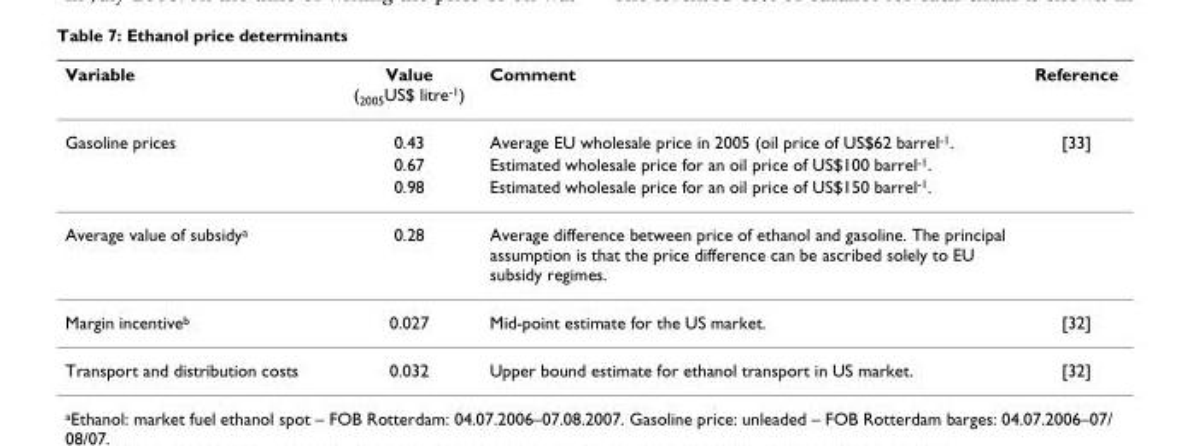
<table><thead><tr><td>Variable</td><td>Value (<sub>2005</sub>US$ litre<sup>-1</sup>)</td><td>Comment</td><td>Reference</td></tr></thead><tbody><tr><td rowspan="3">Gasoline prices</td><td>0.43</td><td>Average EU wholesale price in 2005 (oil price of US$62 barrel<sup>-1</sup>.</td><td>[33]</td></tr><tr><td>0.67</td><td>Estimated wholesale price for an oil price of US$100 barrel<sup>-1</sup>.</td><td></td></tr><tr><td>0.98</td><td>Estimated wholesale price for an oil price of US$150 barrel<sup>-1</sup>.</td><td></td></tr><tr><td>Average value of subsidy<sup>a</sup></td><td>0.28</td><td>Average difference between price of ethanol and gasoline. The principal assumption is that the price difference can be ascribed solely to EU subsidy regimes.</td><td></td></tr><tr><td>Margin incentive<sup>b</sup></td><td>0.027</td><td>Mid-point estimate for the US market.</td><td>[32]</td></tr><tr><td>Transport and distribution costs</td><td>0.032</td><td>Upper bound estimate for ethanol transport in US market.</td><td>[32]</td></tr></tbody></table>